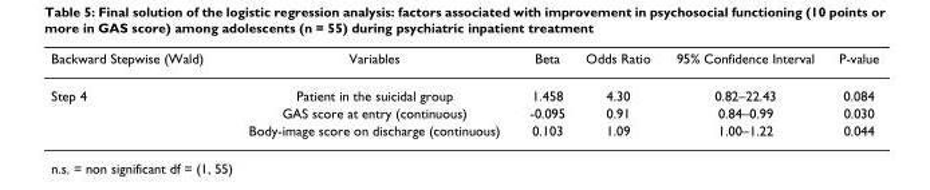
<table><thead><tr><td>Backward Stepwise (Wald)</td><td>Variables</td><td>Beta</td><td>Odds Ratio</td><td>95% Confidence Interval</td><td>P-value</td></tr></thead><tbody><tr><td rowspan="3">Step 4</td><td>Patient in the suicidal group</td><td>1.458</td><td>4.30</td><td>0.82–22.43</td><td>0.084</td></tr><tr><td>GAS score at entry (continuous)</td><td>-0.095</td><td>0.91</td><td>0.84–0.99</td><td>0.030</td></tr><tr><td>Body-image score on discharge (continuous)</td><td>0.103</td><td>1.09</td><td>1.00–1.22</td><td>0.044</td></tr></tbody></table>